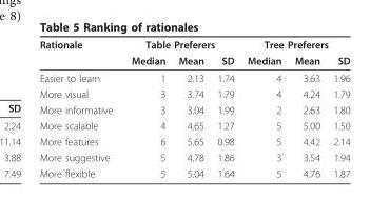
<table><thead><tr><td rowspan="2">Rationale</td><td colspan="3">Table Preferers</td><td colspan="3">Tree Preferers</td></tr><tr><td>Median</td><td>Mean</td><td>SD</td><td>Median</td><td>Mean</td><td>SD</td></tr></thead><tbody><tr><td>Easier to learn</td><td>1</td><td>2.13</td><td>1.74</td><td>4</td><td>3.63</td><td>1.96</td></tr><tr><td>More visual</td><td>3</td><td>3.74</td><td>1.79</td><td>4</td><td>4.24</td><td>1.79</td></tr><tr><td>More informative</td><td>3</td><td>3.04</td><td>1.99</td><td>2</td><td>2.63</td><td>1.80</td></tr><tr><td>More scalable</td><td>4</td><td>4.65</td><td>1.27</td><td>5</td><td>5.00</td><td>1.50</td></tr><tr><td>More features</td><td>6</td><td>5.65</td><td>0.98</td><td>5</td><td>4.42</td><td>2.14</td></tr><tr><td>More suggestive</td><td>5</td><td>4.78</td><td>1.86</td><td>3</td><td>3.54</td><td>1.94</td></tr><tr><td>More flexible</td><td>5</td><td>5.04</td><td>1.64</td><td>5</td><td>4.76</td><td>1.87</td></tr></tbody></table>